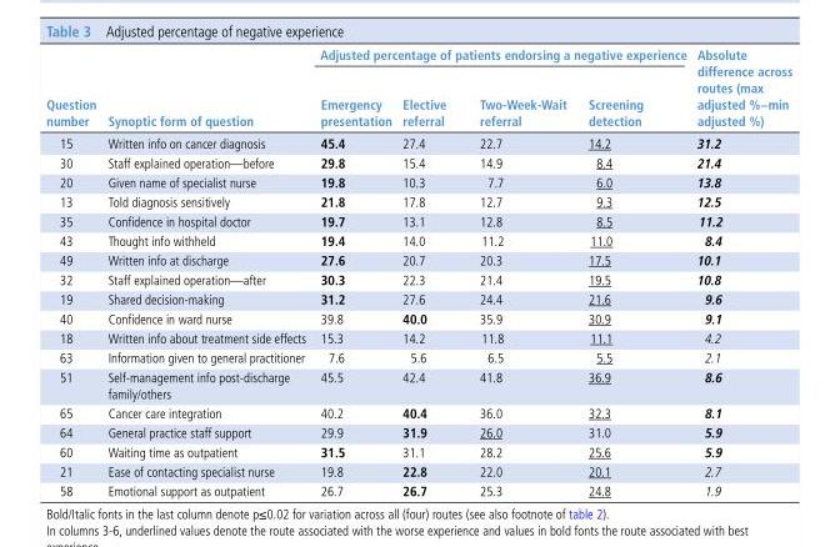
<table><thead><tr><td rowspan="2">Question number</td><td rowspan="2">synoptic form of question</td><td colspan="4">adjusted percentage of patients endorsing a negative experience</td><td rowspan="2">absolute difference across routes (max adjusted %−min adjusted %)</td></tr><tr><td>emergency presentation</td><td>elective referral</td><td>Two-Week-Wait referral</td><td>screening detection</td></tr></thead><tbody><tr><td>15</td><td>Written info on cancer diagnosis</td><td>45.4</td><td>27.4</td><td>22.7</td><td>14.2</td><td>31.2</td></tr><tr><td>30</td><td>Staff explained operation—before</td><td>29.8</td><td>15.4</td><td>14.9</td><td>8.4</td><td>21.4</td></tr><tr><td>20</td><td>Given name of specialist nurse</td><td>19.8</td><td>10.3</td><td>7.7</td><td>6.0</td><td>13.8</td></tr><tr><td>13</td><td>Told diagnosis sensitively</td><td>21.8</td><td>17.8</td><td>12.7</td><td>9.3</td><td>12.5</td></tr><tr><td>35</td><td>Confidence in hospital doctor</td><td>19.7</td><td>13.1</td><td>12.8</td><td>8.5</td><td>11.2</td></tr><tr><td>43</td><td>Thought info withheld</td><td>19.4</td><td>14.0</td><td>11.2</td><td>11.0</td><td>8.4</td></tr><tr><td>49</td><td>Written info at discharge</td><td>27.6</td><td>20.7</td><td>20.3</td><td>17.5</td><td>10.1</td></tr><tr><td>32</td><td>Staff explained operation—after</td><td>30.3</td><td>22.3</td><td>21.4</td><td>19.5</td><td>10.8</td></tr><tr><td>19</td><td>Shared decision-making</td><td>31.2</td><td>27.6</td><td>24.4</td><td>21.6</td><td>9.6</td></tr><tr><td>40</td><td>Confidence in ward nurse</td><td>39.8</td><td>40.0</td><td>35.9</td><td>30.9</td><td>9.1</td></tr><tr><td>18</td><td>Written info about treatment side effects</td><td>15.3</td><td>14.2</td><td>11.8</td><td>11.1</td><td>4.2</td></tr><tr><td>63</td><td>Information given to general practitioner</td><td>7.6</td><td>5.6</td><td>6.5</td><td>5.5</td><td>2.1</td></tr><tr><td>51</td><td>Self-management info post-discharge family/others</td><td>45.5</td><td>42.4</td><td>41.8</td><td>36.9</td><td>8.6</td></tr><tr><td>65</td><td>Cancer care integration</td><td>40.2</td><td>40.4</td><td>36.0</td><td>32.3</td><td>8.1</td></tr><tr><td>64</td><td>General practice staff support</td><td>29.9</td><td>31.9</td><td>26.0</td><td>31.0</td><td>5.9</td></tr><tr><td>60</td><td>Waiting time as outpatient</td><td>31.5</td><td>31.1</td><td>28.2</td><td>25.6</td><td>5.9</td></tr><tr><td>21</td><td>Ease of contacting specialist nurse</td><td>19.8</td><td>22.8</td><td>22.0</td><td>20.1</td><td>2.7</td></tr><tr><td>58</td><td>Emotional support as outpatient</td><td>26.7</td><td>26.7</td><td>25.3</td><td>24.8</td><td>1.9</td></tr></tbody></table>